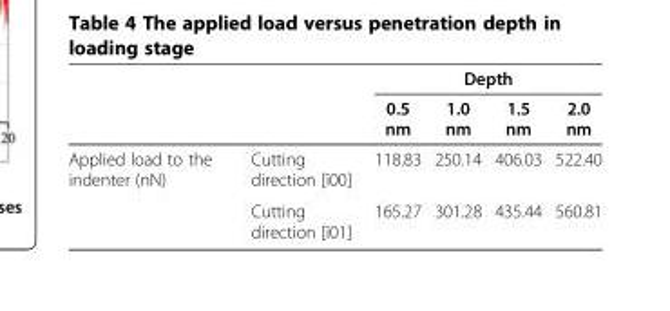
<table><thead><tr><td rowspan="2"></td><td rowspan="2"></td><td colspan="4">Depth</td></tr><tr><td>0.5 nm</td><td>1.0 nm</td><td>1.5 nm</td><td>2.0 nm</td></tr></thead><tbody><tr><td rowspan="2">Applied load to the indenter (nN)</td><td>Cutting direction [ī00]</td><td>118.83</td><td>250.14</td><td>406.03</td><td>522.40</td></tr><tr><td>Cutting direction [ī01]</td><td>165.27</td><td>301.28</td><td>435.44</td><td>560.81</td></tr></tbody></table>